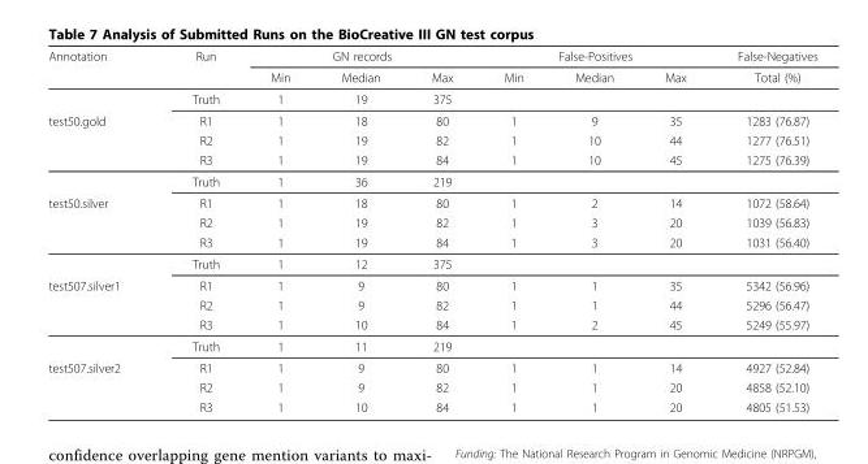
<table><thead><tr><td rowspan="2">Annotation</td><td rowspan="2">Run</td><td colspan="3">GN records</td><td colspan="3">False-Positives</td><td rowspan="2">False-Negatives Total (%)</td></tr><tr><td>Min</td><td>Median</td><td>Max</td><td>Min</td><td>Median</td><td>Max</td></tr></thead><tbody><tr><td></td><td>Truth</td><td>1</td><td>19</td><td>375</td><td></td><td></td><td></td><td></td></tr><tr><td rowspan="4">test50.gold</td><td>R1</td><td>1</td><td>18</td><td>80</td><td>1</td><td>9</td><td>35</td><td>1283 (76.87)</td></tr><tr><td>R2</td><td>1</td><td>19</td><td>82</td><td>1</td><td>10</td><td>44</td><td>1277 (76.51)</td></tr><tr><td>R3</td><td>1</td><td>19</td><td>84</td><td>1</td><td>10</td><td>45</td><td>1275 (76.39)</td></tr><tr><td>Truth</td><td>1</td><td>36</td><td>219</td><td></td><td></td><td></td><td></td></tr><tr><td rowspan="4">test50.silver</td><td>R1</td><td>1</td><td>18</td><td>80</td><td>1</td><td>2</td><td>14</td><td>1072 (58.64)</td></tr><tr><td>R2</td><td>1</td><td>19</td><td>82</td><td>1</td><td>3</td><td>20</td><td>1039 (56.83)</td></tr><tr><td>R3</td><td>1</td><td>19</td><td>84</td><td>1</td><td>3</td><td>20</td><td>1031 (56.40)</td></tr><tr><td>Truth</td><td>1</td><td>12</td><td>375</td><td></td><td></td><td></td><td></td></tr><tr><td rowspan="4">test507.silver1</td><td>R1</td><td>1</td><td>9</td><td>80</td><td>1</td><td>1</td><td>35</td><td>5342 (56.96)</td></tr><tr><td>R2</td><td>1</td><td>9</td><td>82</td><td>1</td><td>1</td><td>44</td><td>5296 (56.47)</td></tr><tr><td>R3</td><td>1</td><td>10</td><td>84</td><td>1</td><td>2</td><td>45</td><td>5249 (55.97)</td></tr><tr><td>Truth</td><td>1</td><td>11</td><td>219</td><td></td><td></td><td></td><td></td></tr><tr><td rowspan="3">test507.silver2</td><td>R1</td><td>1</td><td>9</td><td>80</td><td>1</td><td>1</td><td>14</td><td>4927 (52.84)</td></tr><tr><td>R2</td><td>1</td><td>9</td><td>82</td><td>1</td><td>1</td><td>20</td><td>4858 (52.10)</td></tr><tr><td>R3</td><td>1</td><td>10</td><td>84</td><td>1</td><td>1</td><td>20</td><td>4805 (51.53)</td></tr></tbody></table>